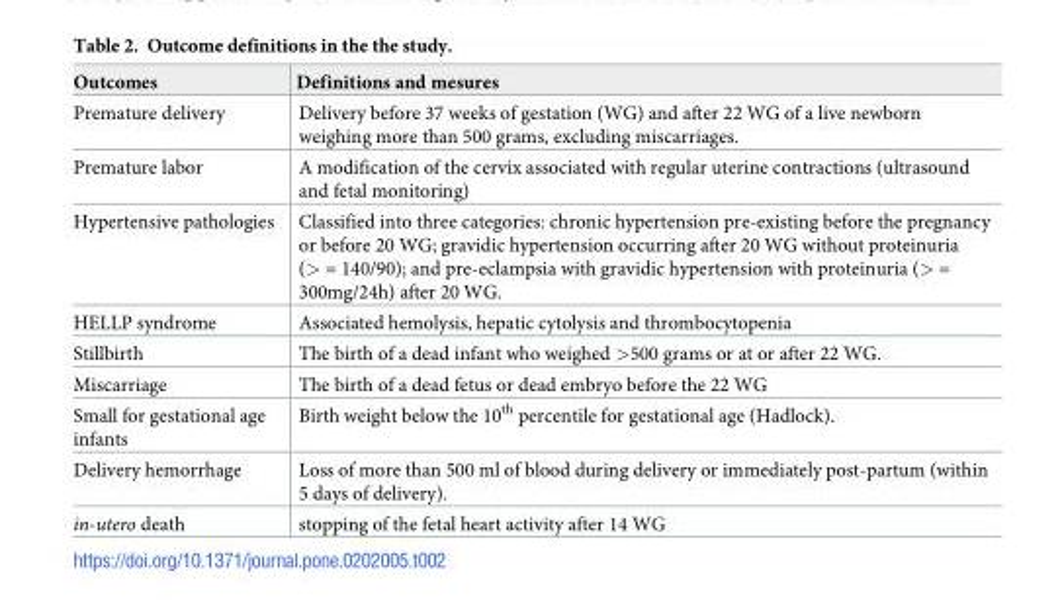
<table><thead><tr><td>Outcomes</td><td>Definitions and mesures</td></tr></thead><tbody><tr><td>Premature delivery</td><td>Delivery before 37 weeks of gestation (WG) and after 22 WG of a live newborn weighing more than 500 grams, excluding miscarriages.</td></tr><tr><td>Premature labor</td><td>A modification of the cervix associated with regular uterine contractions (ultrasound and fetal monitoring)</td></tr><tr><td>Hypertensive pathologies</td><td>Classified into three categories: chronic hypertension pre-existing before the pregnancy or before 20 WG; gravidic hypertension occurring after 20 WG without proteinuria (&gt; = 140/90); and pre-eclampsia with gravidic hypertension with proteinuria (&gt; = 300mg/24h) after 20 WG.</td></tr><tr><td>HELLP syndrome</td><td>Associated hemolysis, hepatic cytolysis and thrombocytopenia</td></tr><tr><td>Stillbirth</td><td>The birth of a dead infant who weighed &gt;500 grams or at or after 22 WG.</td></tr><tr><td>Miscarriage</td><td>The birth of a dead fetus or dead embryo before the 22 WG</td></tr><tr><td>Small for gestational age infants</td><td>Birth weight below the 10<sup>th</sup> percentile for gestational age (Hadlock).</td></tr><tr><td>Delivery hemorrhage</td><td>Loss of more than 500 ml of blood during delivery or immediately post-partum (within 5 days of delivery).</td></tr><tr><td>in-utero death</td><td>stopping of the fetal heart activity after 14 WG</td></tr></tbody></table>